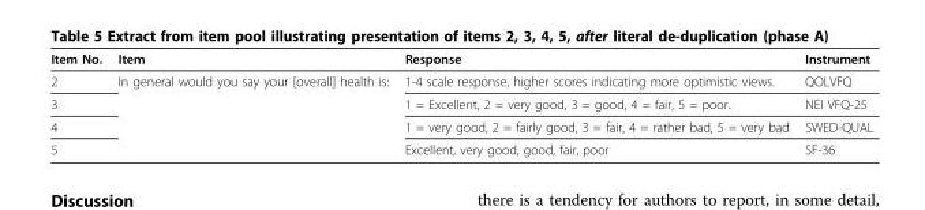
<table><thead><tr><td>Item No.</td><td>Item</td><td>Response</td><td>Instrument</td></tr></thead><tbody><tr><td>2</td><td>In general would you say your [overall] health is:</td><td>1-4 scale response, higher scores indicating more optimistic views.</td><td>QOLVFQ</td></tr><tr><td>3</td><td></td><td>1 = Excellent, 2 = very good, 3 = good, 4 = fair, 5 = poor.</td><td>NEI VFQ-25</td></tr><tr><td>4</td><td></td><td>1 = very good, 2 = fairly good, 3 = fair, 4 = rather bad, 5 = very bad</td><td>SWED-QUAL</td></tr><tr><td>5</td><td></td><td>Excellent, very good, good, fair, poor</td><td>SF-36</td></tr></tbody></table>